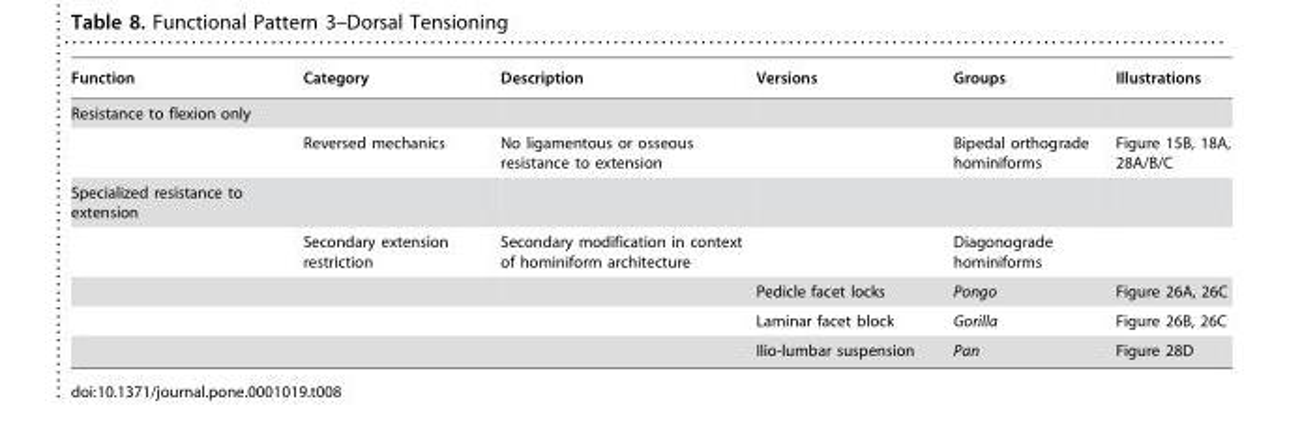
<table><thead><tr><td>Function</td><td>Category</td><td>Description</td><td>Versions</td><td>Groups</td><td>Illustrations</td></tr></thead><tbody><tr><td colspan="6">Resistance to flexion only</td></tr><tr><td></td><td>Reversed mechanics</td><td>No ligamentous or osseous resistance to extension</td><td></td><td>Bipedal orthograde hominiforms</td><td>Figure 15B, 18A, 28A/B/C</td></tr><tr><td colspan="6">Specialized resistance to extension</td></tr><tr><td></td><td>Secondary extension restriction</td><td>Secondary modification in context of hominiform architecture</td><td></td><td>Diagonograde hominiforms</td><td></td></tr><tr><td></td><td></td><td></td><td>Pedicle facet locks</td><td>Pongo</td><td>Figure 26A, 26C</td></tr><tr><td></td><td></td><td></td><td>Laminar facet block</td><td>Gorilla</td><td>Figure 26B, 26C</td></tr><tr><td></td><td></td><td></td><td>Ilio-lumbar suspension</td><td>Pan</td><td>Figure 28D</td></tr></tbody></table>